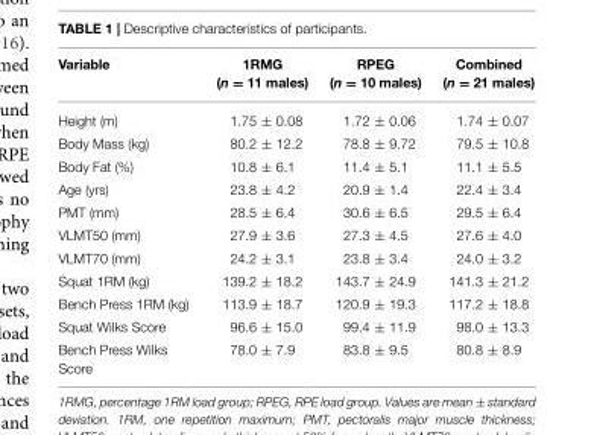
<table><thead><tr><td>Variable</td><td>1RMG (n = 11 males)</td><td>RPEG (n = 10 males)</td><td>Combined (n = 21 males)</td></tr></thead><tbody><tr><td>Height (m)</td><td>1.75 ± 0.08</td><td>1.72 ± 0.06</td><td>1.74 ± 0.07</td></tr><tr><td>Body Mass (kg)</td><td>80.2 ± 12.2</td><td>78.8 ± 9.72</td><td>79.5 ± 10.8</td></tr><tr><td>Body Fat (%)</td><td>10.8 ± 6.1</td><td>11.4 ± 5.1</td><td>11.1 ± 5.5</td></tr><tr><td>Age (yrs)</td><td>23.8 ± 4.2</td><td>20.9 ± 1.4</td><td>22.4 ± 3.4</td></tr><tr><td>PMT (mm)</td><td>28.5 ± 6.4</td><td>30.6 ± 6.5</td><td>29.5 ± 6.4</td></tr><tr><td>VLMT50 (mm)</td><td>27.9 ± 3.6</td><td>27.3 ± 4.5</td><td>27.6 ± 4.0</td></tr><tr><td>VLMT70 (mm)</td><td>24.2 ± 3.1</td><td>23.8 ± 3.4</td><td>24.0 ± 3.2</td></tr><tr><td>Squat 1RM (kg)</td><td>139.2 ± 18.2</td><td>143.7 ± 24.9</td><td>141.3 ± 21.2</td></tr><tr><td>Bench Press 1RM (kg)</td><td>113.9 ± 18.7</td><td>120.9 ± 19.3</td><td>117.2 ± 18.8</td></tr><tr><td>Squat Wilks Score</td><td>96.6 ± 15.0</td><td>99.4 ± 11.9</td><td>98.0 ± 13.3</td></tr><tr><td>Bench Press Wilks Score</td><td>78.0 ± 7.9</td><td>83.8 ± 9.5</td><td>80.8 ± 8.9</td></tr></tbody></table>